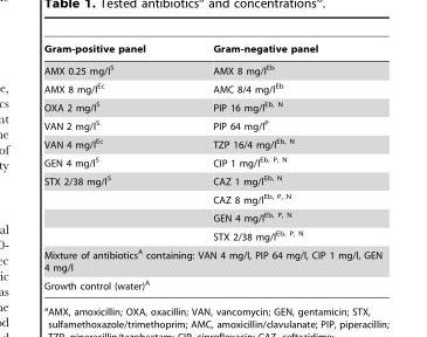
<table><thead><tr><td>Gram-positive panel</td><td>Gram-negative panel</td></tr></thead><tbody><tr><td>AMX 0.25 mg/l<sup>S</sup></td><td>AMX 8 mg/l<sup>Eb</sup></td></tr><tr><td>AMX 8 mg/l<sup>Ec</sup></td><td>AMC 8/4 mg/l<sup>Eb</sup></td></tr><tr><td>OXA 2 mg/l<sup>S</sup></td><td>PIP 16 mg/l<sup>Eb,</sup> N</td></tr><tr><td>VAN 2 mg/l<sup>S</sup></td><td>PIP 64 mg/l<sup>P</sup></td></tr><tr><td>VAN 4 mg/l<sup>Ec</sup></td><td>TZP 16/4 mg/l<sup>Eb,</sup> N</td></tr><tr><td>GEN 4 mg/l<sup>S</sup></td><td>CIP 1 mg/l<sup>Eb,</sup> P<sup>,</sup> N</td></tr><tr><td rowspan="4">STX 2/38 mg/l<sup>S</sup></td><td>CAZ 1 mg/l<sup>Eb,</sup> N</td></tr><tr><td>CAZ 8 mg/l<sup>Eb,</sup> P<sup>,</sup> N</td></tr><tr><td>GEN 4 mg/l<sup>Eb,</sup> P<sup>,</sup> N</td></tr><tr><td>STX 2/38 mg/l<sup>Eb,</sup> P<sup>,</sup> N</td></tr><tr><td colspan="2">Mixture of antibiotics<sup>A</sup> containing: VAN 4 mg/l, PIP 64 mg/l, CIP 1 mg/l, GEN 4 mg/l</td></tr><tr><td colspan="2">Growth control (water)<sup>A</sup></td></tr></tbody></table>